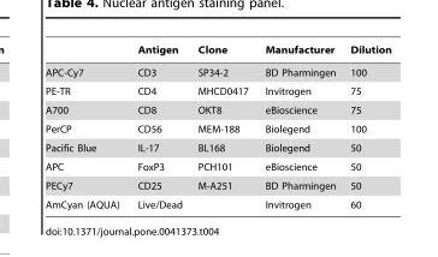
<table><thead><tr><td></td><td>Antigen</td><td>Clone</td><td>Manufacturer</td><td>Dilution</td></tr></thead><tbody><tr><td>APC-Cy7</td><td>CD3</td><td>SP34-2</td><td>BD Pharmingen</td><td>100</td></tr><tr><td>PE-TR</td><td>CD4</td><td>MHCD0417</td><td>Invitrogen</td><td>75</td></tr><tr><td>A700</td><td>CD8</td><td>OKT8</td><td>eBioscience</td><td>75</td></tr><tr><td>PerCP</td><td>CD56</td><td>MEM-188</td><td>Biolegend</td><td>100</td></tr><tr><td>Pacific Blue</td><td>IL-17</td><td>BL168</td><td>Biolegend</td><td>50</td></tr><tr><td>APC</td><td>FoxP3</td><td>PCH101</td><td>eBioscience</td><td>50</td></tr><tr><td>PECy7</td><td>CD25</td><td>M-A251</td><td>BD Pharmingen</td><td>50</td></tr><tr><td>AmCyan (AQUA)</td><td>Live/Dead</td><td></td><td>Invitrogen</td><td>60</td></tr></tbody></table>